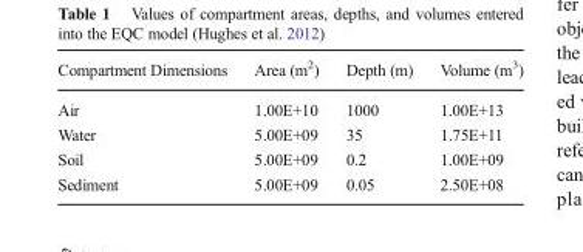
<table><thead><tr><td>Compartment Dimensions</td><td>Area (m<sup>2</sup>)</td><td>Depth (m)</td><td>Volume (m<sup>3</sup>)</td></tr></thead><tbody><tr><td>Air</td><td>1.00E+10</td><td>1000</td><td>1.00E+13</td></tr><tr><td>Water</td><td>5.00E+09</td><td>35</td><td>1.75E+11</td></tr><tr><td>Soil</td><td>5.00E+09</td><td>0.2</td><td>1.00E+09</td></tr><tr><td>Sediment</td><td>5.00E+09</td><td>0.05</td><td>2.50E+08</td></tr></tbody></table>